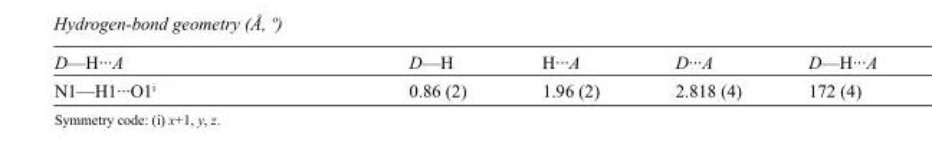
<table><tbody><tr><td>D—H···A</td><td>D—H</td><td>H···A</td><td>D···A</td><td>D—H···A</td></tr><tr><td>N1—H1···O1<sup>i</sup></td><td>0.86 (2)</td><td>1.96 (2)</td><td>2.818 (4)</td><td>172 (4)</td></tr></tbody></table>